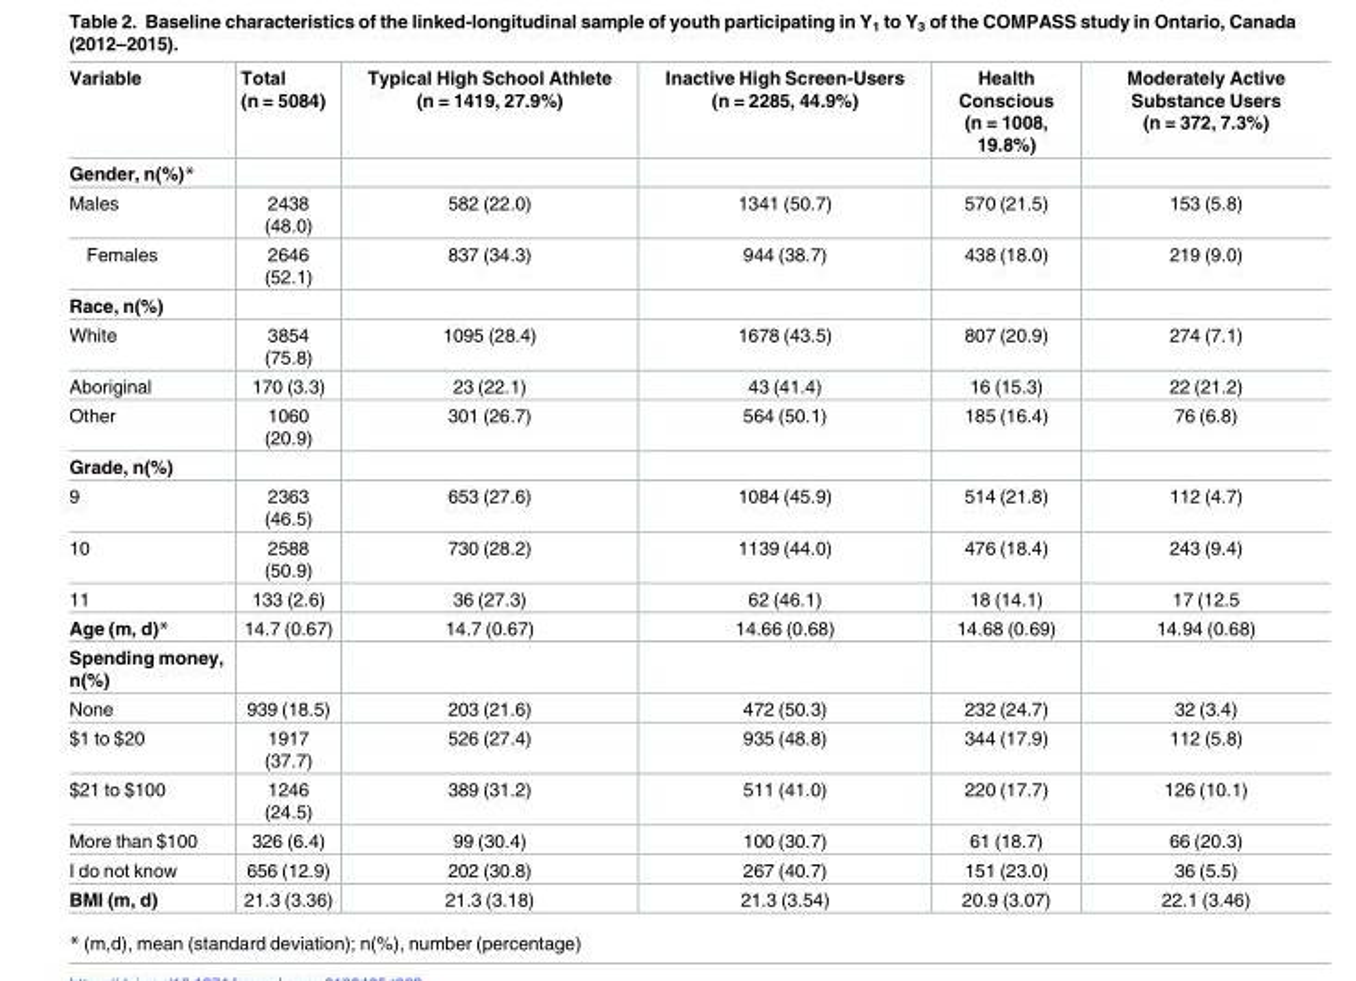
<table><thead><tr><td>Variable</td><td>Total (n = 5084)</td><td>Typical High School Athlete (n = 1419, 27.9%)</td><td>Inactive High Screen-Users (n = 2285, 44.9%)</td><td>Health Conscious (n = 1008, 19.8%)</td><td>Moderately Active Substance Users (n = 372, 7.3%)</td></tr></thead><tbody><tr><td colspan="6">Gender, n(%)*</td></tr><tr><td>Males</td><td>2438 (48.0)</td><td>582 (22.0)</td><td>1341 (50.7)</td><td>570 (21.5)</td><td>153 (5.8)</td></tr><tr><td>Females</td><td>2646 (52.1)</td><td>837 (34.3)</td><td>944 (38.7)</td><td>438 (18.0)</td><td>219 (9.0)</td></tr><tr><td colspan="6">Race, n(%)</td></tr><tr><td>White</td><td>3854 (75.8)</td><td>1095 (28.4)</td><td>1678 (43.5)</td><td>807 (20.9)</td><td>274 (7.1)</td></tr><tr><td>Aboriginal</td><td>170 (3.3)</td><td>23 (22.1)</td><td>43 (41.4)</td><td>16 (15.3)</td><td>22 (21.2)</td></tr><tr><td>Other</td><td>1060 (20.9)</td><td>301 (26.7)</td><td>564 (50.1)</td><td>185 (16.4)</td><td>76 (6.8)</td></tr><tr><td colspan="6">Grade, n(%)</td></tr><tr><td>9</td><td>2363 (46.5)</td><td>653 (27.6)</td><td>1084 (45.9)</td><td>514 (21.8)</td><td>112 (4.7)</td></tr><tr><td>10</td><td>2588 (50.9)</td><td>730 (28.2)</td><td>1139 (44.0)</td><td>476 (18.4)</td><td>243 (9.4)</td></tr><tr><td>11</td><td>133 (2.6)</td><td>36 (27.3)</td><td>62 (46.1)</td><td>18 (14.1)</td><td>17 (12.5</td></tr><tr><td>Age (m, d)*</td><td>14.7 (0.67)</td><td>14.7 (0.67)</td><td>14.66 (0.68)</td><td>14.68 (0.69)</td><td>14.94 (0.68)</td></tr><tr><td colspan="6">Spending money, n(%)</td></tr><tr><td>None</td><td>939 (18.5)</td><td>203 (21.6)</td><td>472 (50.3)</td><td>232 (24.7)</td><td>32 (3.4)</td></tr><tr><td>$1 to $20</td><td>1917 (37.7)</td><td>526 (27.4)</td><td>935 (48.8)</td><td>344 (17.9)</td><td>112 (5.8)</td></tr><tr><td>$21 to $100</td><td>1246 (24.5)</td><td>389 (31.2)</td><td>511 (41.0)</td><td>220 (17.7)</td><td>126 (10.1)</td></tr><tr><td>More than $100</td><td>326 (6.4)</td><td>99 (30.4)</td><td>100 (30.7)</td><td>61 (18.7)</td><td>66 (20.3)</td></tr><tr><td>I do not know</td><td>656 (12.9)</td><td>202 (30.8)</td><td>267 (40.7)</td><td>151 (23.0)</td><td>36 (5.5)</td></tr><tr><td>BMI (m, d)</td><td>21.3 (3.36)</td><td>21.3 (3.18)</td><td>21.3 (3.54)</td><td>20.9 (3.07)</td><td>22.1 (3.46)</td></tr></tbody></table>